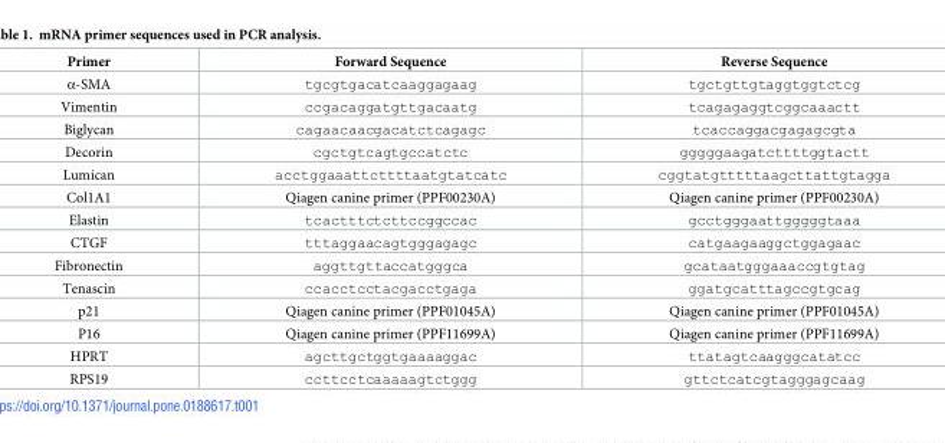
<table><thead><tr><td>Primer</td><td>Forward Sequence</td><td>Reverse Sequence</td></tr></thead><tbody><tr><td>α-SMA</td><td>tgcgtgacatcaaggagaag</td><td>tgctgttgtaggtggtctcg</td></tr><tr><td>Vimentin</td><td>ccgacaggatgttgacaatg</td><td>tcagagaggtcggcaaactt</td></tr><tr><td>Biglycan</td><td>cagaacaacgacatctcagagc</td><td>tcaccaggacgagagcgta</td></tr><tr><td>Decorin</td><td>cgctgtcagtgccatctc</td><td>gggggaagatcttttggtactt</td></tr><tr><td>Lumican</td><td>acctggaaattcttttaatgtatcatc</td><td>cggtatgtttttaagcttattgtagga</td></tr><tr><td>Col1A1</td><td>Qiagen canine primer (PPF00230A)</td><td>Qiagen canine primer (PPF00230A)</td></tr><tr><td>Elastin</td><td>tcactttctcttccggccac</td><td>gcctgggaattgggggtaaa</td></tr><tr><td>CTGF</td><td>tttaggaacagtgggagagc</td><td>catgaagaaggctggagaac</td></tr><tr><td>Fibronectin</td><td>aggttgttaccatgggca</td><td>gcataatgggaaaccgtgtag</td></tr><tr><td>Tenascin</td><td>ccacctcctacgacctgaga</td><td>ggatgcatttagccgtgcag</td></tr><tr><td>p21</td><td>Qiagen canine primer (PPF01045A)</td><td>Qiagen canine primer (PPF01045A)</td></tr><tr><td>P16</td><td>Qiagen canine primer (PPF11699A)</td><td>Qiagen canine primer (PPF11699A)</td></tr><tr><td>HPRT</td><td>agcttgctggtgaaaaggac</td><td>ttatagtcaagggcatatcc</td></tr><tr><td>RPS19</td><td>ccttcctcaaaaagtctggg</td><td>gttctcatcgtagggagcaag</td></tr></tbody></table>